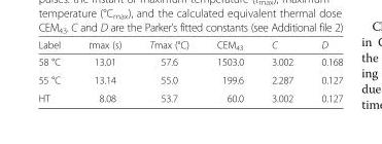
<table><thead><tr><td>Label</td><td>tmax (s)</td><td>Tmax (°C)</td><td>CEM<sub>43</sub></td><td>C</td><td>D</td></tr></thead><tbody><tr><td>58 °C</td><td>13.01</td><td>57.6</td><td>1503.0</td><td>3.002</td><td>0.168</td></tr><tr><td>55 °C</td><td>13.14</td><td>55.0</td><td>199.6</td><td>2.287</td><td>0.127</td></tr><tr><td>HT</td><td>8.08</td><td>53.7</td><td>60.0</td><td>3.002</td><td>0.127</td></tr></tbody></table>